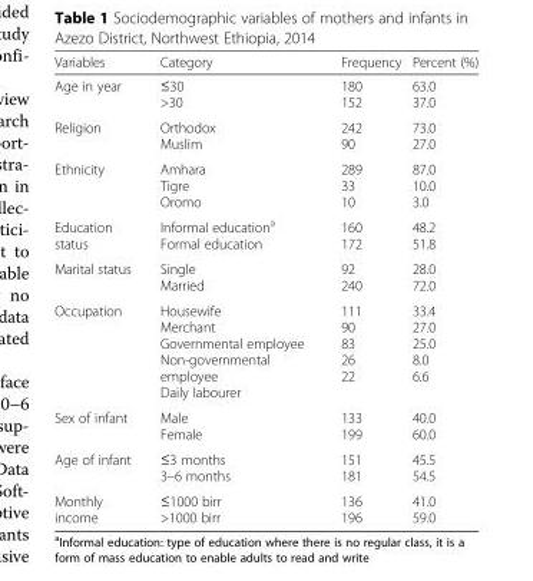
<table><thead><tr><td>Variables</td><td>Category</td><td>Frequency</td><td>Percent (%)</td></tr></thead><tbody><tr><td>Age in year</td><td>≤30 &gt;30</td><td>180 152</td><td>63.0 37.0</td></tr><tr><td>Religion</td><td>Orthodox Muslim</td><td>242 90</td><td>73.0 27.0</td></tr><tr><td>Ethnicity</td><td>Amhara Tigre Oromo</td><td>289 33 10</td><td>87.0 10.0 3.0</td></tr><tr><td>Education status</td><td>Informal education<sup>a</sup> Formal education</td><td>160 172</td><td>48.2 51.8</td></tr><tr><td>Marital status</td><td>Single Married</td><td>92 240</td><td>28.0 72.0</td></tr><tr><td>Occupation</td><td>Housewife Merchant Governmental employee Non-governmental employee Daily labourer</td><td>111 90 83 26 22</td><td>33.4 27.0 25.0 8.0 6.6</td></tr><tr><td>Sex of infant</td><td>Male Female</td><td>133 199</td><td>40.0 60.0</td></tr><tr><td>Age of infant</td><td>≤3 months 3–6 months</td><td>151 181</td><td>45.5 54.5</td></tr><tr><td>Monthly income</td><td>≤1000 birr &gt;1000 birr</td><td>136 196</td><td>41.0 59.0</td></tr></tbody></table>